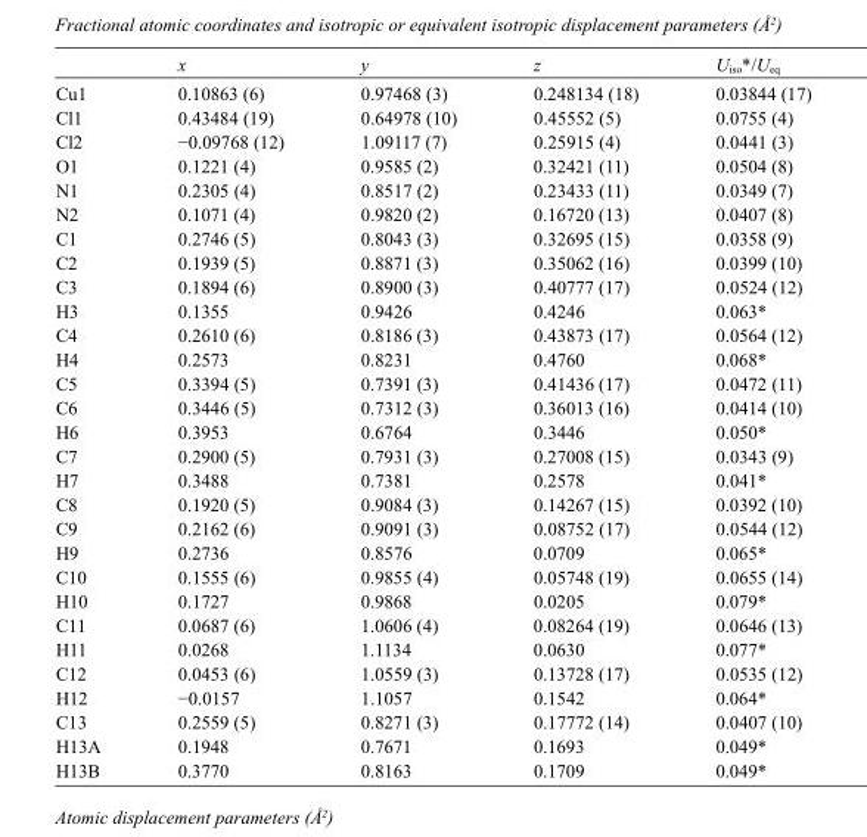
<table><thead><tr><td></td><td>x</td><td>y</td><td>z</td><td>U<sub>iso</sub>*/U<sub>eq</sub></td></tr></thead><tbody><tr><td>Cu1</td><td>0.10863 (6)</td><td>0.97468 (3)</td><td>0.248134 (18)</td><td>0.03844 (17)</td></tr><tr><td>Cl1</td><td>0.43484 (19)</td><td>0.64978 (10)</td><td>0.45552 (5)</td><td>0.0755 (4)</td></tr><tr><td>Cl2</td><td>−0.09768 (12)</td><td>1.09117 (7)</td><td>0.25915 (4)</td><td>0.0441 (3)</td></tr><tr><td>O1</td><td>0.1221 (4)</td><td>0.9585 (2)</td><td>0.32421 (11)</td><td>0.0504 (8)</td></tr><tr><td>N1</td><td>0.2305 (4)</td><td>0.8517 (2)</td><td>0.23433 (11)</td><td>0.0349 (7)</td></tr><tr><td>N2</td><td>0.1071 (4)</td><td>0.9820 (2)</td><td>0.16720 (13)</td><td>0.0407 (8)</td></tr><tr><td>C1</td><td>0.2746 (5)</td><td>0.8043 (3)</td><td>0.32695 (15)</td><td>0.0358 (9)</td></tr><tr><td>C2</td><td>0.1939 (5)</td><td>0.8871 (3)</td><td>0.35062 (16)</td><td>0.0399 (10)</td></tr><tr><td>C3</td><td>0.1894 (6)</td><td>0.8900 (3)</td><td>0.40777 (17)</td><td>0.0524 (12)</td></tr><tr><td>H3</td><td>0.1355</td><td>0.9426</td><td>0.4246</td><td>0.063*</td></tr><tr><td>C4</td><td>0.2610 (6)</td><td>0.8186 (3)</td><td>0.43873 (17)</td><td>0.0564 (12)</td></tr><tr><td>H4</td><td>0.2573</td><td>0.8231</td><td>0.4760</td><td>0.068*</td></tr><tr><td>C5</td><td>0.3394 (5)</td><td>0.7391 (3)</td><td>0.41436 (17)</td><td>0.0472 (11)</td></tr><tr><td>C6</td><td>0.3446 (5)</td><td>0.7312 (3)</td><td>0.36013 (16)</td><td>0.0414 (10)</td></tr><tr><td>H6</td><td>0.3953</td><td>0.6764</td><td>0.3446</td><td>0.050*</td></tr><tr><td>C7</td><td>0.2900 (5)</td><td>0.7931 (3)</td><td>0.27008 (15)</td><td>0.0343 (9)</td></tr><tr><td>H7</td><td>0.3488</td><td>0.7381</td><td>0.2578</td><td>0.041*</td></tr><tr><td>C8</td><td>0.1920 (5)</td><td>0.9084 (3)</td><td>0.14267 (15)</td><td>0.0392 (10)</td></tr><tr><td>C9</td><td>0.2162 (6)</td><td>0.9091 (3)</td><td>0.08752 (17)</td><td>0.0544 (12)</td></tr><tr><td>H9</td><td>0.2736</td><td>0.8576</td><td>0.0709</td><td>0.065*</td></tr><tr><td>C10</td><td>0.1555 (6)</td><td>0.9855 (4)</td><td>0.05748 (19)</td><td>0.0655 (14)</td></tr><tr><td>H10</td><td>0.1727</td><td>0.9868</td><td>0.0205</td><td>0.079*</td></tr><tr><td>C11</td><td>0.0687 (6)</td><td>1.0606 (4)</td><td>0.08264 (19)</td><td>0.0646 (13)</td></tr><tr><td>H11</td><td>0.0268</td><td>1.1134</td><td>0.0630</td><td>0.077*</td></tr><tr><td>C12</td><td>0.0453 (6)</td><td>1.0559 (3)</td><td>0.13728 (17)</td><td>0.0535 (12)</td></tr><tr><td>H12</td><td>−0.0157</td><td>1.1057</td><td>0.1542</td><td>0.064*</td></tr><tr><td>C13</td><td>0.2559 (5)</td><td>0.8271 (3)</td><td>0.17772 (14)</td><td>0.0407 (10)</td></tr><tr><td>H13A</td><td>0.1948</td><td>0.7671</td><td>0.1693</td><td>0.049*</td></tr><tr><td>H13B</td><td>0.3770</td><td>0.8163</td><td>0.1709</td><td>0.049*</td></tr></tbody></table>